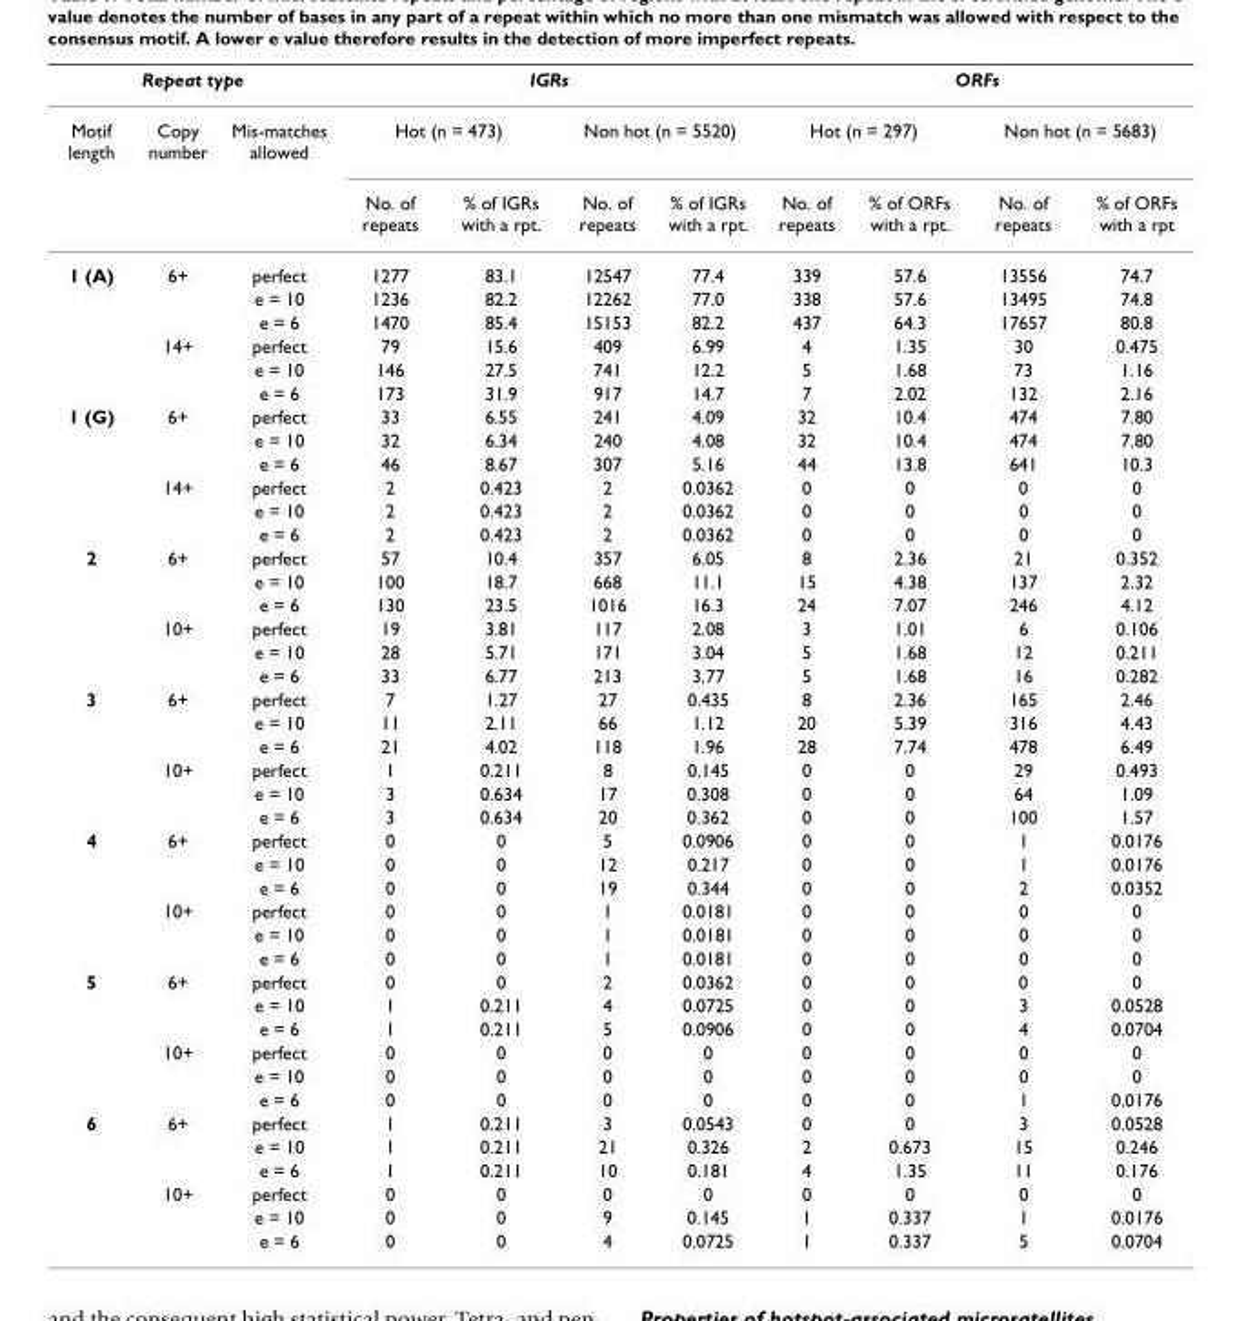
<table><thead><tr><td colspan="3">Repeat type</td><td colspan="4">IGRs</td><td colspan="4">ORFs</td></tr><tr><td rowspan="2">Motif length</td><td rowspan="2">Copy number</td><td rowspan="2">Mis-matches allowed</td><td colspan="2">Hot (n = 473)</td><td colspan="2">Non hot (n = 5520)</td><td colspan="2">Hot (n = 297)</td><td colspan="2">Non hot (n = 5683)</td></tr><tr><td>No. of repeats</td><td>% of IGRs with a rpt.</td><td>No. of repeats</td><td>% of IGRs with a rpt.</td><td>No. of repeats</td><td>% of ORFs with a rpt.</td><td>No. of repeats</td><td>% of ORFs with a rpt</td></tr></thead><tbody><tr><td rowspan="6">1 (A)</td><td>6+</td><td>perfect</td><td>1277</td><td>83.1</td><td>12547</td><td>77.4</td><td>339</td><td>57.6</td><td>13556</td><td>74.7</td></tr><tr><td></td><td>e = 10</td><td>1236</td><td>82.2</td><td>12262</td><td>77.0</td><td>338</td><td>57.6</td><td>13495</td><td>74.8</td></tr><tr><td></td><td>e = 6</td><td>1470</td><td>85.4</td><td>15153</td><td>82.2</td><td>437</td><td>64.3</td><td>17657</td><td>80.8</td></tr><tr><td>14+</td><td>perfect</td><td>79</td><td>15.6</td><td>409</td><td>6.99</td><td>4</td><td>1.35</td><td>30</td><td>0.475</td></tr><tr><td></td><td>e = 10</td><td>146</td><td>27.5</td><td>741</td><td>12.2</td><td>5</td><td>1.68</td><td>73</td><td>1.16</td></tr><tr><td></td><td>e = 6</td><td>173</td><td>31.9</td><td>917</td><td>14.7</td><td>7</td><td>2.02</td><td>132</td><td>2.16</td></tr><tr><td rowspan="6">1 (G)</td><td>6+</td><td>perfect</td><td>33</td><td>6.55</td><td>241</td><td>4.09</td><td>32</td><td>10.4</td><td>474</td><td>7.80</td></tr><tr><td></td><td>e = 10</td><td>32</td><td>6.34</td><td>240</td><td>4.08</td><td>32</td><td>10.4</td><td>474</td><td>7.80</td></tr><tr><td></td><td>e = 6</td><td>46</td><td>8.67</td><td>307</td><td>5.16</td><td>44</td><td>13.8</td><td>641</td><td>10.3</td></tr><tr><td>14+</td><td>perfect</td><td>2</td><td>0.423</td><td>2</td><td>0.0362</td><td>0</td><td>0</td><td>0</td><td>0</td></tr><tr><td></td><td>e = 10</td><td>2</td><td>0.423</td><td>2</td><td>0.0362</td><td>0</td><td>0</td><td>0</td><td>0</td></tr><tr><td></td><td>e = 6</td><td>2</td><td>0.423</td><td>2</td><td>0.0362</td><td>0</td><td>0</td><td>0</td><td>0</td></tr><tr><td rowspan="6">2</td><td>6+</td><td>perfect</td><td>57</td><td>10.4</td><td>357</td><td>6.05</td><td>8</td><td>2.36</td><td>21</td><td>0.352</td></tr><tr><td></td><td>e = 10</td><td>100</td><td>18.7</td><td>668</td><td>11.1</td><td>15</td><td>4.38</td><td>137</td><td>2.32</td></tr><tr><td></td><td>e = 6</td><td>130</td><td>23.5</td><td>1016</td><td>16.3</td><td>24</td><td>7.07</td><td>246</td><td>4.12</td></tr><tr><td>10+</td><td>perfect</td><td>19</td><td>3.81</td><td>117</td><td>2.08</td><td>3</td><td>1.01</td><td>6</td><td>0.106</td></tr><tr><td></td><td>e = 10</td><td>28</td><td>5.71</td><td>171</td><td>3.04</td><td>5</td><td>1.68</td><td>12</td><td>0.211</td></tr><tr><td></td><td>e = 6</td><td>33</td><td>6.77</td><td>213</td><td>3.77</td><td>5</td><td>1.68</td><td>16</td><td>0.282</td></tr><tr><td rowspan="6">3</td><td>6+</td><td>perfect</td><td>7</td><td>1.27</td><td>27</td><td>0.435</td><td>8</td><td>2.36</td><td>165</td><td>2.46</td></tr><tr><td></td><td>e = 10</td><td>11</td><td>2.11</td><td>66</td><td>1.12</td><td>20</td><td>5.39</td><td>316</td><td>4.43</td></tr><tr><td></td><td>e = 6</td><td>21</td><td>4.02</td><td>118</td><td>1.96</td><td>28</td><td>7.74</td><td>478</td><td>6.49</td></tr><tr><td>10+</td><td>perfect</td><td>1</td><td>0.211</td><td>8</td><td>0.145</td><td>0</td><td>0</td><td>29</td><td>0.493</td></tr><tr><td></td><td>e = 10</td><td>3</td><td>0.634</td><td>17</td><td>0.308</td><td>0</td><td>0</td><td>64</td><td>1.09</td></tr><tr><td></td><td>e = 6</td><td>3</td><td>0.634</td><td>20</td><td>0.362</td><td>0</td><td>0</td><td>100</td><td>1.57</td></tr><tr><td rowspan="6">4</td><td>6+</td><td>perfect</td><td>0</td><td>0</td><td>5</td><td>0.0906</td><td>0</td><td>0</td><td>1</td><td>0.0176</td></tr><tr><td></td><td>e = 10</td><td>0</td><td>0</td><td>12</td><td>0.217</td><td>0</td><td>0</td><td>1</td><td>0.0176</td></tr><tr><td></td><td>e = 6</td><td>0</td><td>0</td><td>19</td><td>0.344</td><td>0</td><td>0</td><td>2</td><td>0.0352</td></tr><tr><td>10+</td><td>perfect</td><td>0</td><td>0</td><td>1</td><td>0.0181</td><td>0</td><td>0</td><td>0</td><td>0</td></tr><tr><td></td><td>e = 10</td><td>0</td><td>0</td><td>1</td><td>0.0181</td><td>0</td><td>0</td><td>0</td><td>0</td></tr><tr><td></td><td>e = 6</td><td>0</td><td>0</td><td>1</td><td>0.0181</td><td>0</td><td>0</td><td>0</td><td>0</td></tr><tr><td rowspan="6">5</td><td>6+</td><td>perfect</td><td>0</td><td>0</td><td>2</td><td>0.0362</td><td>0</td><td>0</td><td>0</td><td>0</td></tr><tr><td></td><td>e = 10</td><td>1</td><td>0.211</td><td>4</td><td>0.0725</td><td>0</td><td>0</td><td>3</td><td>0.0528</td></tr><tr><td></td><td>e = 6</td><td>1</td><td>0.211</td><td>5</td><td>0.0906</td><td>0</td><td>0</td><td>4</td><td>0.0704</td></tr><tr><td>10+</td><td>perfect</td><td>0</td><td>0</td><td>0</td><td>0</td><td>0</td><td>0</td><td>0</td><td>0</td></tr><tr><td></td><td>e = 10</td><td>0</td><td>0</td><td>0</td><td>0</td><td>0</td><td>0</td><td>0</td><td>0</td></tr><tr><td></td><td>e = 6</td><td>0</td><td>0</td><td>0</td><td>0</td><td>0</td><td>0</td><td>1</td><td>0.0176</td></tr><tr><td rowspan="6">6</td><td>6+</td><td>perfect</td><td>1</td><td>0.211</td><td>3</td><td>0.0543</td><td>0</td><td>0</td><td>3</td><td>0.0528</td></tr><tr><td></td><td>e = 10</td><td>1</td><td>0.211</td><td>21</td><td>0.326</td><td>2</td><td>0.673</td><td>15</td><td>0.246</td></tr><tr><td></td><td>e = 6</td><td>1</td><td>0.211</td><td>10</td><td>0.181</td><td>4</td><td>1.35</td><td>11</td><td>0.176</td></tr><tr><td>10+</td><td>perfect</td><td>0</td><td>0</td><td>0</td><td>0</td><td>0</td><td>0</td><td>0</td><td>0</td></tr><tr><td></td><td>e = 10</td><td>0</td><td>0</td><td>9</td><td>0.145</td><td>1</td><td>0.337</td><td>1</td><td>0.0176</td></tr><tr><td></td><td>e = 6</td><td>0</td><td>0</td><td>4</td><td>0.0725</td><td>1</td><td>0.337</td><td>5</td><td>0.0704</td></tr></tbody></table>